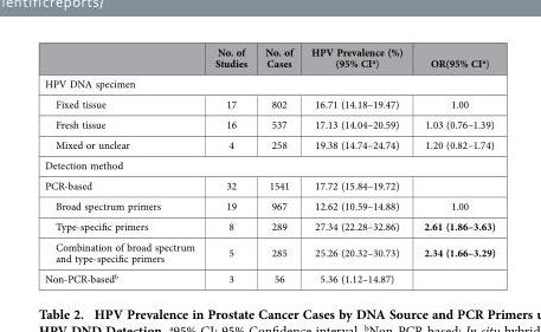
<table><thead><tr><td></td><td>No. of Studies</td><td>No. of Cases</td><td>HPV Prevalence (%) (95% CI<sup>a</sup>)</td><td>OR(95% CI<sup>a</sup>)</td></tr></thead><tbody><tr><td colspan="5">HPV DNA specimen</td></tr><tr><td>Fixed tissue</td><td>17</td><td>802</td><td>16.71 (14.18–19.47)</td><td>1.00</td></tr><tr><td>Fresh tissue</td><td>16</td><td>537</td><td>17.13 (14.04–20.59)</td><td>1.03 (0.76–1.39)</td></tr><tr><td>Mixed or unclear</td><td>4</td><td>258</td><td>19.38 (14.74–24.74)</td><td>1.20 (0.82–1.74)</td></tr><tr><td colspan="5">Detection method</td></tr><tr><td>PCR-based</td><td>32</td><td>1541</td><td>17.72 (15.84–19.72)</td><td></td></tr><tr><td>Broad spectrum primers</td><td>19</td><td>967</td><td>12.62 (10.59–14.88)</td><td>1.00</td></tr><tr><td>Type-specific primers</td><td>8</td><td>289</td><td>27.34 (22.28–32.86)</td><td>2.61 (1.86–3.63)</td></tr><tr><td>Combination of broad spectrum and type-specific primers</td><td>5</td><td>285</td><td>25.26 (20.32–30.73)</td><td>2.34 (1.66–3.29)</td></tr><tr><td>Non-PCR-based<sup>b</sup></td><td>3</td><td>56</td><td>5.36 (1.12–14.87)</td><td></td></tr></tbody></table>